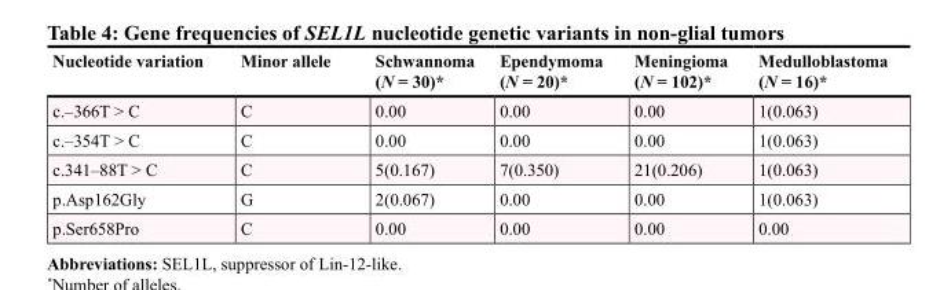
<table><thead><tr><td>Nucleotide variation</td><td>Minor allele</td><td>Schwannoma (N = 30)*</td><td>Ependymoma (N = 20)*</td><td>Meningioma (N = 102)*</td><td>Medulloblastoma (N = 16)*</td></tr></thead><tbody><tr><td>c.–366T &gt; C</td><td>C</td><td>0.00</td><td>0.00</td><td>0.00</td><td>1(0.063)</td></tr><tr><td>c.–354T &gt; C</td><td>C</td><td>0.00</td><td>0.00</td><td>0.00</td><td>1(0.063)</td></tr><tr><td>c.341–88T &gt; C</td><td>C</td><td>5(0.167)</td><td>7(0.350)</td><td>21(0.206)</td><td>1(0.063)</td></tr><tr><td>p.Asp162Gly</td><td>G</td><td>2(0.067)</td><td>0.00</td><td>0.00</td><td>1(0.063)</td></tr><tr><td>p.Ser658Pro</td><td>C</td><td>0.00</td><td>0.00</td><td>0.00</td><td>0.00</td></tr></tbody></table>